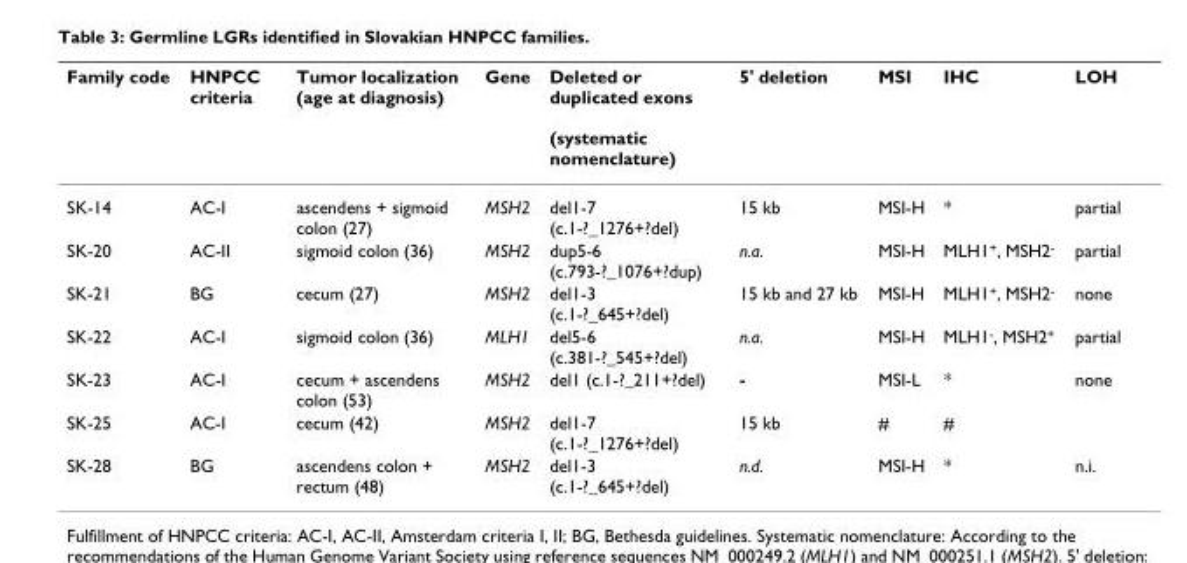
<table><thead><tr><td>Family code</td><td>HNPCC criteria</td><td>Tumor localization (age at diagnosis)</td><td>Gene</td><td>Deleted or duplicated exons (systematic nomenclature)</td><td>5&#x27; deletion</td><td>MSI</td><td>IHC</td><td>LOH</td></tr></thead><tbody><tr><td>SK-14</td><td>AC-I</td><td>ascendens + sigmoid colon (27)</td><td>MSH2</td><td>del1-7 (c.1-?_1276+?del)</td><td>15 kb</td><td>MSI-H</td><td>*</td><td>partial</td></tr><tr><td>SK-20</td><td>AC-II</td><td>sigmoid colon (36)</td><td>MSH2</td><td>dup5-6 (c.793-?_1076+?dup)</td><td>n.a.</td><td>MSI-H</td><td>MLH1<sup>+</sup>, MSH2<sup>-</sup></td><td>partial</td></tr><tr><td>SK-21</td><td>BG</td><td>cecum (27)</td><td>MSH2</td><td>del1-3 (c.1-?_645+?del)</td><td>15 kb and 27 kb</td><td>MSI-H</td><td>MLH1<sup>+</sup>, MSH2<sup>-</sup></td><td>none</td></tr><tr><td>SK-22</td><td>AC-I</td><td>sigmoid colon (36)</td><td>MLH1</td><td>del5-6 (c.381-?_545+?del)</td><td>n.a.</td><td>MSI-H</td><td>MLH1<sup>-</sup>, MSH2<sup>+</sup></td><td>partial</td></tr><tr><td>SK-23</td><td>AC-I</td><td>cecum + ascendens colon (53)</td><td>MSH2</td><td>del1 (c.1-?_211+?del)</td><td>-</td><td>MSI-L</td><td>*</td><td>none</td></tr><tr><td>SK-25</td><td>AC-I</td><td>cecum (42)</td><td>MSH2</td><td>del1-7 (c.1-?_1276+?del)</td><td>15 kb</td><td>#</td><td>#</td><td></td></tr><tr><td>SK-28</td><td>BG</td><td>ascendens colon + rectum (48)</td><td>MSH2</td><td>del1-3 (c.1-?_645+?del)</td><td>n.d.</td><td>MSI-H</td><td>*</td><td>n.i.</td></tr></tbody></table>